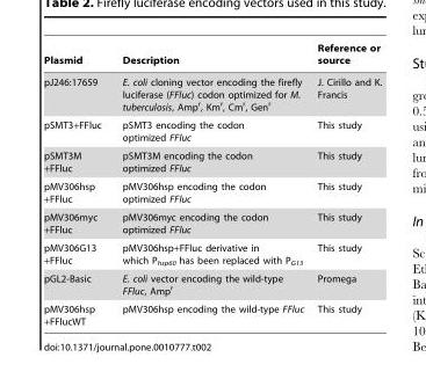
<table><thead><tr><td>Plasmid</td><td>Description</td><td>Reference or source</td></tr></thead><tbody><tr><td>pJ246:17659</td><td>E. coli cloning vector encoding the firefly luciferase (FFluc) codon optimized for M. tuberculosis, Amp<sup>r</sup>, Km<sup>r</sup>, Cm<sup>r</sup>, Gen<sup>r</sup></td><td>J. Cirillo and K. Francis</td></tr><tr><td>pSMT3+FFluc</td><td>pSMT3 encoding the codon optimized FFluc</td><td>This study</td></tr><tr><td>pSMT3M +FFluc</td><td>pSMT3M encoding the codon optimized FFluc</td><td>This study</td></tr><tr><td>pMV306hsp +FFluc</td><td>pMV306hsp encoding the codon optimized FFluc</td><td>This study</td></tr><tr><td>pMV306myc +FFluc</td><td>pMV306myc encoding the codon optimized FFluc</td><td>This study</td></tr><tr><td>pMV306G13 +FFluc</td><td>pMV306hsp+FFluc derivative in which P<sub>hsp60</sub> has been replaced with P<sub>G13</sub></td><td>This study</td></tr><tr><td>pGL2-Basic</td><td>E. coli vector encoding the wild-type FFluc, Amp<sup>r</sup></td><td>Promega</td></tr><tr><td>pMV306hsp +FFlucWT</td><td>pMV306hsp encoding the wild-type FFluc</td><td>This study</td></tr></tbody></table>